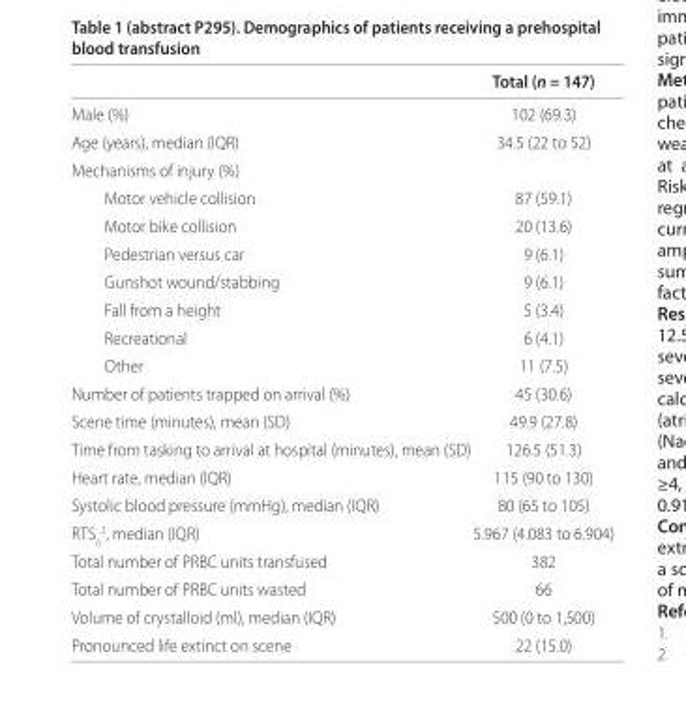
<table><thead><tr><td></td><td>Total (n = 147)</td></tr></thead><tbody><tr><td>Male (%)</td><td>102 (69.3)</td></tr><tr><td>Age (years), median (IQR)</td><td>34.5 (22 to 52)</td></tr><tr><td colspan="2">Mechanisms of injury (%)</td></tr><tr><td>Motor vehicle collision</td><td>87 (59.1)</td></tr><tr><td>Motor bike collision</td><td>20 (13.6)</td></tr><tr><td>Pedestrian versus car</td><td>9 (6.1)</td></tr><tr><td>Gunshot wound/stabbing</td><td>9 (6.1)</td></tr><tr><td>Fall from a height</td><td>5 (3.4)</td></tr><tr><td>Recreational</td><td>6 (4.1)</td></tr><tr><td>Other</td><td>11 (7.5)</td></tr><tr><td>Number of patients trapped on arrival (%)</td><td>45 (30.6)</td></tr><tr><td>Scene time (minutes), mean (SD)</td><td>49.9 (27.8)</td></tr><tr><td>Time from tasking to arrival at hospital (minutes), mean (SD)</td><td>126.5 (51.3)</td></tr><tr><td>Heart rate, median (IQR)</td><td>115 (90 to 130)</td></tr><tr><td>Systolic blood pressure (mmHg), median (IQR)</td><td>80 (65 to 105)</td></tr><tr><td>RTS<sub>o</sub> <sup>2</sup>, median (IQR)</td><td>5.967 (4.083 to 6.904)</td></tr><tr><td>Total number of PRBC units transfused</td><td>382</td></tr><tr><td>Total number of PRBC units wasted</td><td>66</td></tr><tr><td>Volume of crystalloid (ml), median (IQR)</td><td>500 (0 to 1,500)</td></tr><tr><td>Pronounced life extinct on scene</td><td>22 (15.0)</td></tr></tbody></table>